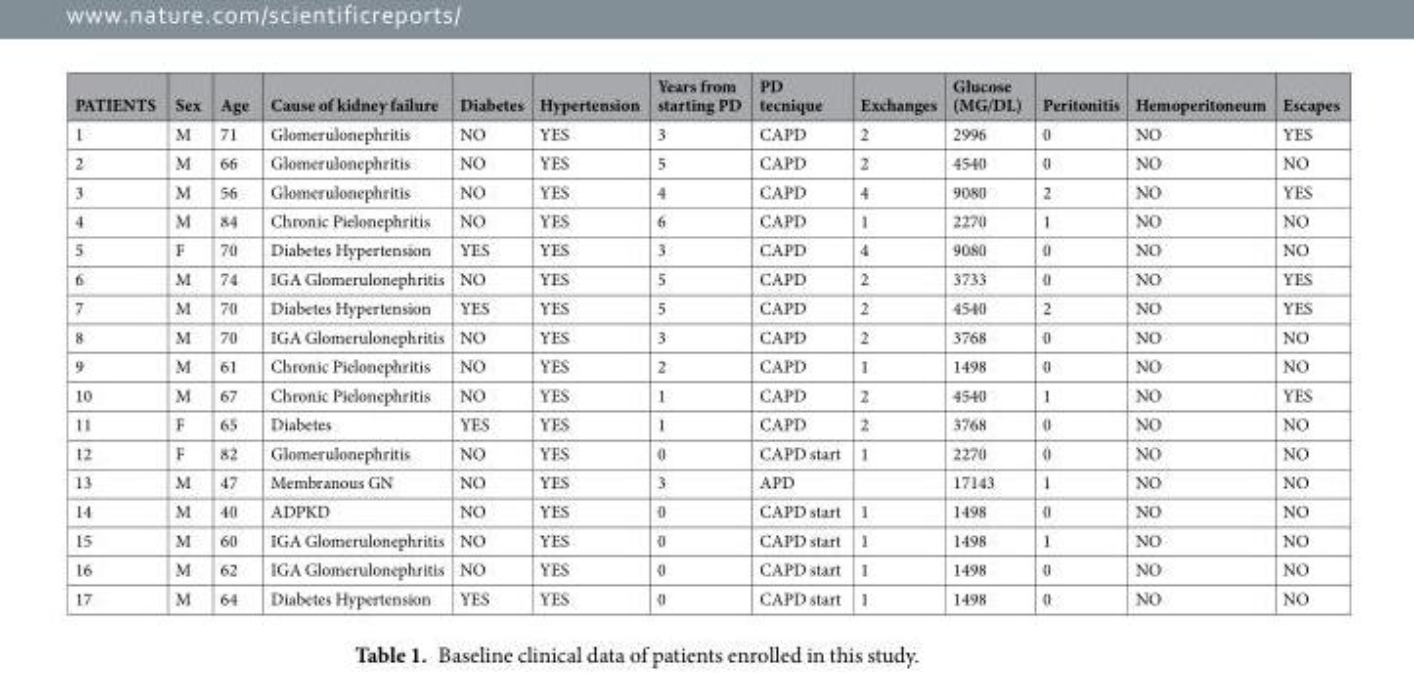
<table><thead><tr><td>PATIENTS</td><td>Sex</td><td>Age</td><td>Cause of kidney failure</td><td>Diabetes</td><td>Hypertension</td><td>Years from starting PD</td><td>PD tecnique</td><td>Exchanges</td><td>Glucose (MG/DL)</td><td>Peritonitis</td><td>Hemoperitoneum</td><td>Escapes</td></tr></thead><tbody><tr><td>1</td><td>M</td><td>71</td><td>Glomerulonephritis</td><td>NO</td><td>YES</td><td>3</td><td>CAPD</td><td>2</td><td>2996</td><td>0</td><td>NO</td><td>YES</td></tr><tr><td>2</td><td>M</td><td>66</td><td>Glomerulonephritis</td><td>NO</td><td>YES</td><td>5</td><td>CAPD</td><td>2</td><td>4540</td><td>0</td><td>NO</td><td>NO</td></tr><tr><td>3</td><td>M</td><td>56</td><td>Glomerulonephritis</td><td>NO</td><td>YES</td><td>4</td><td>CAPD</td><td>4</td><td>9080</td><td>2</td><td>NO</td><td>YES</td></tr><tr><td>4</td><td>M</td><td>84</td><td>Chronic Pielonephritis</td><td>NO</td><td>YES</td><td>6</td><td>CAPD</td><td>1</td><td>2270</td><td>1</td><td>NO</td><td>NO</td></tr><tr><td>5</td><td>F</td><td>70</td><td>Diabetes Hypertension</td><td>YES</td><td>YES</td><td>3</td><td>CAPD</td><td>4</td><td>9080</td><td>0</td><td>NO</td><td>NO</td></tr><tr><td>6</td><td>M</td><td>74</td><td>IGA Glomerulonephritis</td><td>NO</td><td>YES</td><td>5</td><td>CAPD</td><td>2</td><td>3733</td><td>0</td><td>NO</td><td>YES</td></tr><tr><td>7</td><td>M</td><td>70</td><td>Diabetes Hypertension</td><td>YES</td><td>YES</td><td>5</td><td>CAPD</td><td>2</td><td>4540</td><td>2</td><td>NO</td><td>YES</td></tr><tr><td>8</td><td>M</td><td>70</td><td>IGA Glomerulonephritis</td><td>NO</td><td>YES</td><td>3</td><td>CAPD</td><td>2</td><td>3768</td><td>0</td><td>NO</td><td>NO</td></tr><tr><td>9</td><td>M</td><td>61</td><td>Chronic Pielonephritis</td><td>NO</td><td>YES</td><td>2</td><td>CAPD</td><td>1</td><td>1498</td><td>0</td><td>NO</td><td>NO</td></tr><tr><td>10</td><td>M</td><td>67</td><td>Chronic Pielonephritis</td><td>NO</td><td>YES</td><td>1</td><td>CAPD</td><td>2</td><td>4540</td><td>1</td><td>NO</td><td>YES</td></tr><tr><td>11</td><td>F</td><td>65</td><td>Diabetes</td><td>YES</td><td>YES</td><td>1</td><td>CAPD</td><td>2</td><td>3768</td><td>0</td><td>NO</td><td>NO</td></tr><tr><td>12</td><td>F</td><td>82</td><td>Glomerulonephritis</td><td>NO</td><td>YES</td><td>0</td><td>CAPD start</td><td>1</td><td>2270</td><td>0</td><td>NO</td><td>NO</td></tr><tr><td>13</td><td>M</td><td>47</td><td>Membranous GN</td><td>NO</td><td>YES</td><td>3</td><td>APD</td><td></td><td>17143</td><td>1</td><td>NO</td><td>NO</td></tr><tr><td>14</td><td>M</td><td>40</td><td>ADPKD</td><td>NO</td><td>YES</td><td>0</td><td>CAPD start</td><td>1</td><td>1498</td><td>0</td><td>NO</td><td>NO</td></tr><tr><td>15</td><td>M</td><td>60</td><td>IGA Glomerulonephritis</td><td>NO</td><td>YES</td><td>0</td><td>CAPD start</td><td>1</td><td>1498</td><td>1</td><td>NO</td><td>NO</td></tr><tr><td>16</td><td>M</td><td>62</td><td>IGA Glomerulonephritis</td><td>NO</td><td>YES</td><td>0</td><td>CAPD start</td><td>1</td><td>1498</td><td>0</td><td>NO</td><td>NO</td></tr><tr><td>17</td><td>M</td><td>64</td><td>Diabetes Hypertension</td><td>YES</td><td>YES</td><td>0</td><td>CAPD start</td><td>1</td><td>1498</td><td>0</td><td>NO</td><td>NO</td></tr></tbody></table>